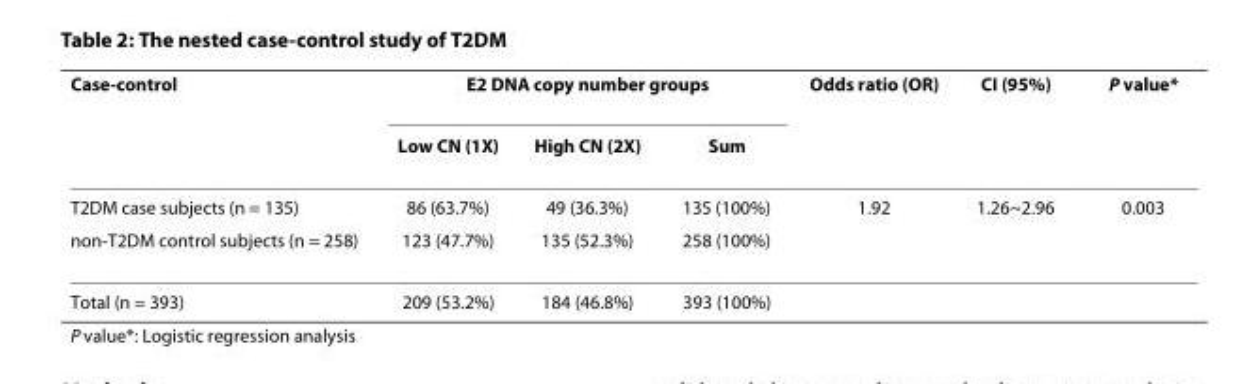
<table><thead><tr><td rowspan="2">Case-control</td><td colspan="3">E2 DNA copy number groups</td><td rowspan="2">Odds ratio (OR)</td><td rowspan="2">CI (95%)</td><td rowspan="2">P value*</td></tr><tr><td>Low CN (1X)</td><td>High CN (2X)</td><td>Sum</td></tr></thead><tbody><tr><td>T2DM case subjects (n = 135)</td><td>86 (63.7%)</td><td>49 (36.3%)</td><td>135 (100%)</td><td>1.92</td><td>1.26~2.96</td><td>0.003</td></tr><tr><td>non-T2DM control subjects (n = 258)</td><td>123 (47.7%)</td><td>135 (52.3%)</td><td>258 (100%)</td><td></td><td></td><td></td></tr><tr><td>Total (n = 393)</td><td>209 (53.2%)</td><td>184 (46.8%)</td><td>393 (100%)</td><td></td><td></td><td></td></tr></tbody></table>